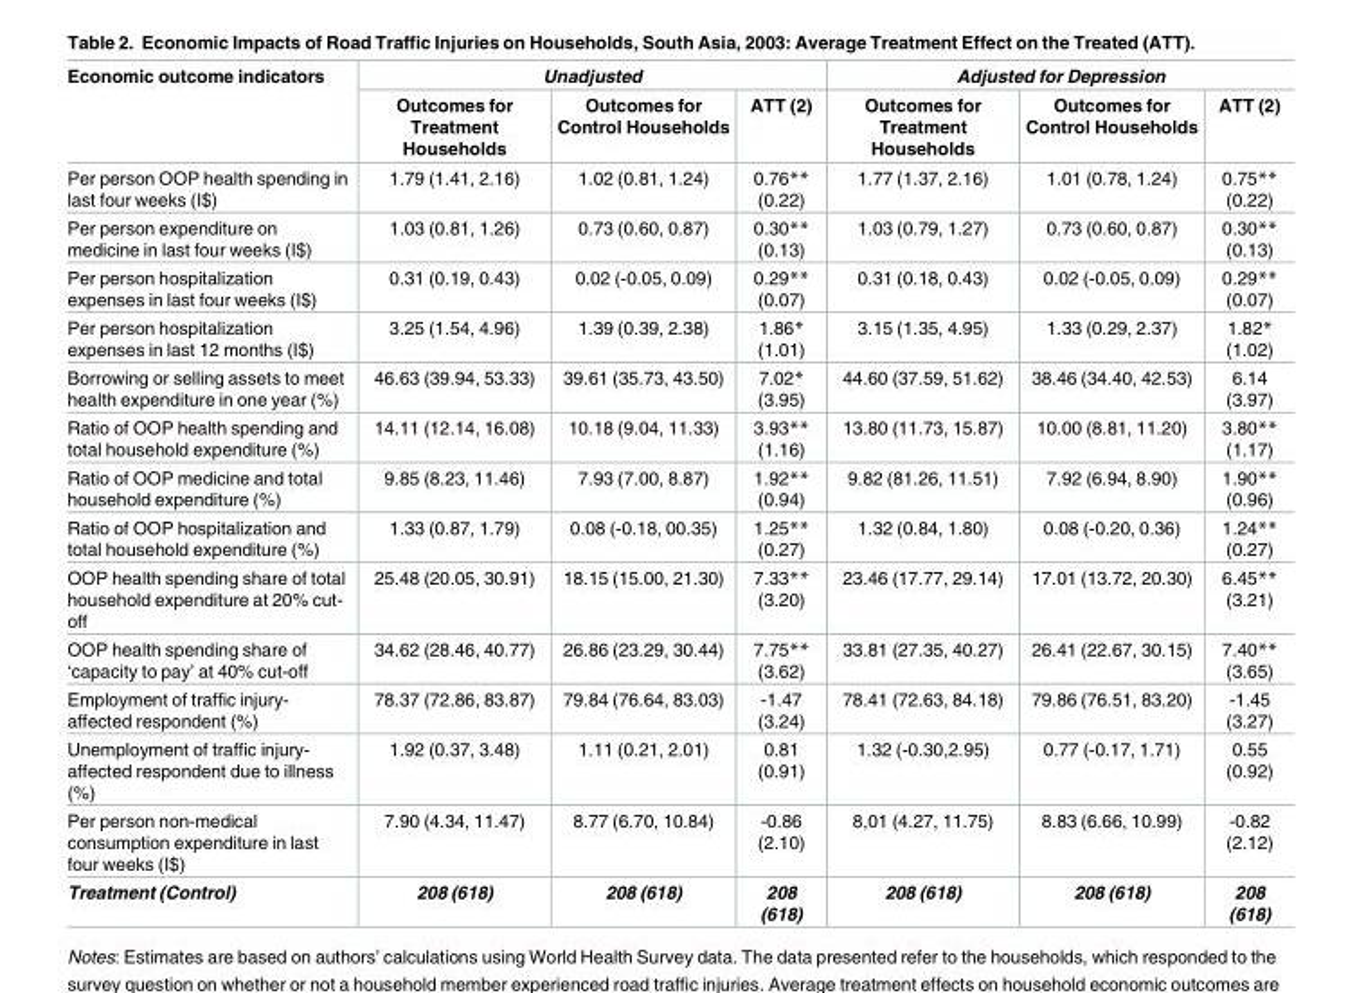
<table><thead><tr><td rowspan="2">Economic outcome indicators</td><td colspan="3">Unadjusted</td><td colspan="3">Adjusted for Depression</td></tr><tr><td>Outcomes for Treatment Households</td><td>Outcomes for Control Households</td><td>ATT (2)</td><td>Outcomes for Treatment Households</td><td>Outcomes for Control Households</td><td>ATT (2)</td></tr></thead><tbody><tr><td>Per person OOP health spending in last four weeks (I$)</td><td>1.79 (1.41, 2.16)</td><td>1.02 (0.81, 1.24)</td><td>0.76** (0.22)</td><td>1.77 (1.37, 2.16)</td><td>1.01 (0.78, 1.24)</td><td>0.75** (0.22)</td></tr><tr><td>Per person expenditure on medicine in last four weeks (I$)</td><td>1.03 (0.81, 1.26)</td><td>0.73 (0.60, 0.87)</td><td>0.30** (0.13)</td><td>1.03 (0.79, 1.27)</td><td>0.73 (0.60, 0.87)</td><td>0.30** (0.13)</td></tr><tr><td>Per person hospitalization expenses in last four weeks (I$)</td><td>0.31 (0.19, 0.43)</td><td>0.02 (-0.05, 0.09)</td><td>0.29** (0.07)</td><td>0.31 (0.18, 0.43)</td><td>0.02 (-0.05, 0.09)</td><td>0.29** (0.07)</td></tr><tr><td>Per person hospitalization expenses in last 12 months (I$)</td><td>3.25 (1.54, 4.96)</td><td>1.39 (0.39, 2.38)</td><td>1.86* (1.01)</td><td>3.15 (1.35, 4.95)</td><td>1.33 (0.29, 2.37)</td><td>1.82* (1.02)</td></tr><tr><td>Borrowing or selling assets to meet health expenditure in one year (%)</td><td>46.63 (39.94, 53.33)</td><td>39.61 (35.73, 43.50)</td><td>7.02* (3.95)</td><td>44.60 (37.59, 51.62)</td><td>38.46 (34.40, 42.53)</td><td>6.14 (3.97)</td></tr><tr><td>Ratio of OOP health spending and total household expenditure (%)</td><td>14.11 (12.14, 16.08)</td><td>10.18 (9.04, 11.33)</td><td>3.93** (1.16)</td><td>13.80 (11.73, 15.87)</td><td>10.00 (8.81, 11.20)</td><td>3.80** (1.17)</td></tr><tr><td>Ratio of OOP medicine and total household expenditure (%)</td><td>9.85 (8.23, 11.46)</td><td>7.93 (7.00, 8.87)</td><td>1.92** (0.94)</td><td>9.82 (81.26, 11.51)</td><td>7.92 (6.94, 8.90)</td><td>1.90** (0.96)</td></tr><tr><td>Ratio of OOP hospitalization and total household expenditure (%)</td><td>1.33 (0.87, 1.79)</td><td>0.08 (-0.18, 00.35)</td><td>1.25** (0.27)</td><td>1.32 (0.84, 1.80)</td><td>0.08 (-0.20, 0.36)</td><td>1.24** (0.27)</td></tr><tr><td>OOP health spending share of total household expenditure at 20% cut- off</td><td>25.48 (20.05, 30.91)</td><td>18.15 (15.00, 21.30)</td><td>7.33** (3.20)</td><td>23.46 (17.77, 29.14)</td><td>17.01 (13.72, 20.30)</td><td>6.45** (3.21)</td></tr><tr><td>OOP health spending share of ‘capacity to pay’ at 40% cut-off</td><td>34.62 (28.46, 40.77)</td><td>26.86 (23.29, 30.44)</td><td>7.75** (3.62)</td><td>33.81 (27.35, 40.27)</td><td>26.41 (22.67, 30.15)</td><td>7.40** (3.65)</td></tr><tr><td>Employment of traffic injury- affected respondent (%)</td><td>78.37 (72.86, 83.87)</td><td>79.84 (76.64, 83.03)</td><td>-1.47 (3.24)</td><td>78.41 (72.63, 84.18)</td><td>79.86 (76.51, 83.20)</td><td>-1.45 (3.27)</td></tr><tr><td>Unemployment of traffic injury- affected respondent due to illness (%)</td><td>1.92 (0.37, 3.48)</td><td>1.11 (0.21, 2.01)</td><td>0.81 (0.91)</td><td>1.32 (-0.30,2.95)</td><td>0.77 (-0.17, 1.71)</td><td>0.55 (0.92)</td></tr><tr><td>Per person non-medical consumption expenditure in last four weeks (I$)</td><td>7.90 (4.34, 11.47)</td><td>8.77 (6.70, 10.84)</td><td>-0.86 (2.10)</td><td>8,01 (4.27, 11.75)</td><td>8.83 (6.66, 10.99)</td><td>-0.82 (2.12)</td></tr><tr><td>Treatment (Control)</td><td>208 (618)</td><td>208 (618)</td><td>208 (618)</td><td>208 (618)</td><td>208 (618)</td><td>208 (618)</td></tr></tbody></table>